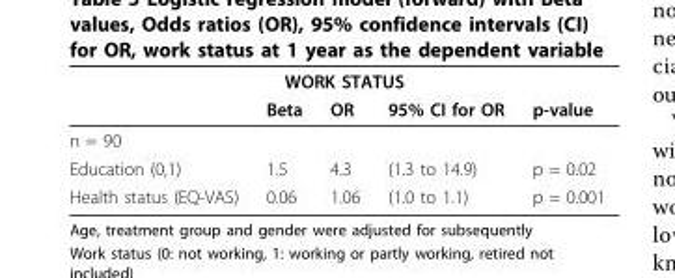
<table><thead><tr><td colspan="5">WORK STATUS</td></tr><tr><td></td><td>Beta</td><td>OR</td><td>95% CI for OR</td><td>p-value</td></tr></thead><tbody><tr><td colspan="5">n = 90</td></tr><tr><td>Education (0,1)</td><td>1.5</td><td>4.3</td><td>(1.3 to 14.9)</td><td>p = 0.02</td></tr><tr><td>Health status (EQ-VAS)</td><td>0.06</td><td>1.06</td><td>(1.0 to 1.1)</td><td>p = 0.001</td></tr></tbody></table>